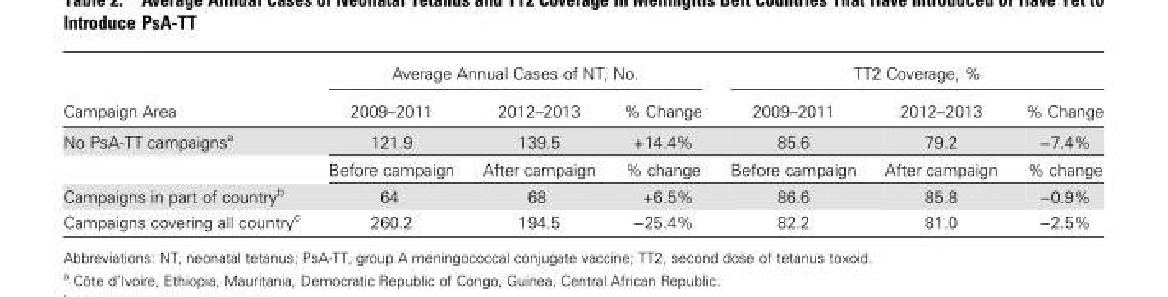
<table><thead><tr><td rowspan="2">Campaign Area</td><td colspan="3">Average Annual Cases of NT, No.</td><td colspan="3">TT2 Coverage, %</td></tr><tr><td>2009–2011</td><td>2012–2013</td><td>% Change</td><td>2009–2011</td><td>2012–2013</td><td>% Change</td></tr></thead><tbody><tr><td rowspan="2">No PsA-TT campaigns<sup>a</sup></td><td>121.9</td><td>139.5</td><td>+14.4%</td><td>85.6</td><td>79.2</td><td>−7.4%</td></tr><tr><td>Before campaign</td><td>After campaign</td><td>% change</td><td>Before campaign</td><td>After campaign</td><td>% change</td></tr><tr><td>Campaigns in part of country<sup>b</sup></td><td>64</td><td>68</td><td>+6.5%</td><td>86.6</td><td>85.8</td><td>−0.9%</td></tr><tr><td>Campaigns covering all country<sup>c</sup></td><td>260.2</td><td>194.5</td><td>−25.4%</td><td>82.2</td><td>81.0</td><td>−2.5%</td></tr></tbody></table>